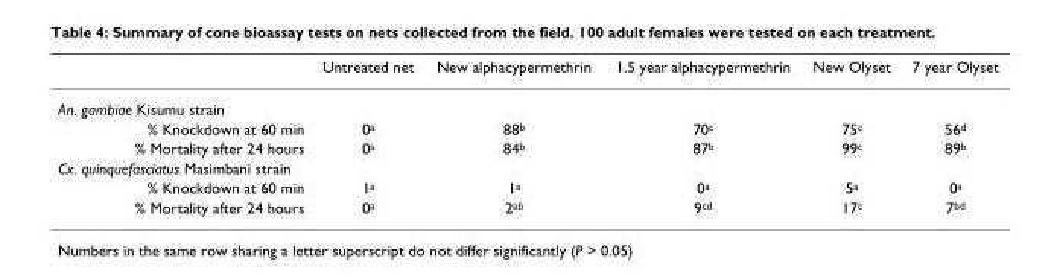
<table><thead><tr><td></td><td>Untreated net</td><td>New alphacypermethrin</td><td>1.5 year alphacypermethrin</td><td>New Olyset</td><td>7 year Olyset</td></tr></thead><tbody><tr><td colspan="6">An. gambiae Kisumu strain</td></tr><tr><td>% Knockdown at 60 min</td><td>0<sup>a</sup></td><td>88<sup>b</sup></td><td>70<sup>c</sup></td><td>75<sup>c</sup></td><td>56<sup>d</sup></td></tr><tr><td>% Mortality after 24 hours</td><td>0<sup>a</sup></td><td>84<sup>b</sup></td><td>87<sup>b</sup></td><td>99<sup>c</sup></td><td>89<sup>b</sup></td></tr><tr><td colspan="6">Cx. quinquefasciatus Masimbani strain</td></tr><tr><td>% Knockdown at 60 min</td><td>1<sup>a</sup></td><td>1<sup>a</sup></td><td>0<sup>a</sup></td><td>5<sup>a</sup></td><td>0<sup>a</sup></td></tr><tr><td>% Mortality after 24 hours</td><td>0<sup>a</sup></td><td>2<sup>ab</sup></td><td>9<sup>cd</sup></td><td>17<sup>c</sup></td><td>7<sup>bd</sup></td></tr></tbody></table>